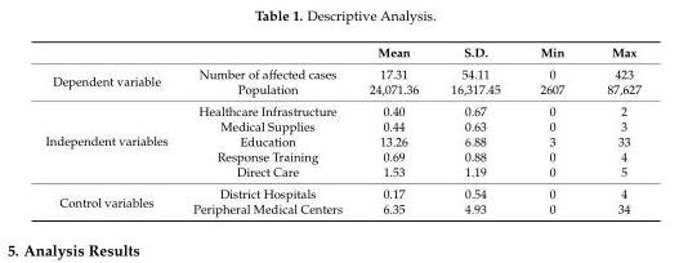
<table><thead><tr><td></td><td></td><td>Mean</td><td>S.D.</td><td>Min</td><td>Max</td></tr></thead><tbody><tr><td rowspan="2">Dependent variable</td><td>Number of affected cases</td><td>17.31</td><td>54.11</td><td>0</td><td>423</td></tr><tr><td>Population</td><td>24,071.36</td><td>16,317.45</td><td>2607</td><td>87,627</td></tr><tr><td rowspan="5">Independent variables</td><td>Healthcare Infrastructure</td><td>0.40</td><td>0.67</td><td>0</td><td>2</td></tr><tr><td>Medical Supplies</td><td>0.44</td><td>0.63</td><td>0</td><td>3</td></tr><tr><td>Education</td><td>13.26</td><td>6.88</td><td>3</td><td>33</td></tr><tr><td>Response Training</td><td>0.69</td><td>0.88</td><td>0</td><td>4</td></tr><tr><td>Direct Care</td><td>1.53</td><td>1.19</td><td>0</td><td>5</td></tr><tr><td rowspan="2">Control variables</td><td>District Hospitals</td><td>0.17</td><td>0.54</td><td>0</td><td>4</td></tr><tr><td>Peripheral Medical Centers</td><td>6.35</td><td>4.93</td><td>0</td><td>34</td></tr></tbody></table>